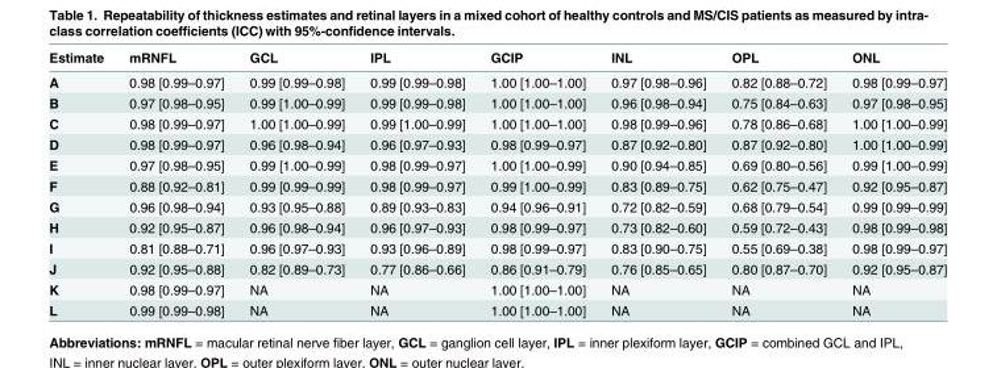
<table><thead><tr><td>Estimate</td><td>mRNFL</td><td>GCL</td><td>IPL</td><td>GCIP</td><td>INL</td><td>OPL</td><td>ONL</td></tr></thead><tbody><tr><td>A</td><td>0.98 [0.99–0.97]</td><td>0.99 [0.99–0.98]</td><td>0.99 [0.99–0.98]</td><td>1.00 [1.00–1.00]</td><td>0.97 [0.98–0.96]</td><td>0.82 [0.88–0.72]</td><td>0.98 [0.99–0.97]</td></tr><tr><td>B</td><td>0.97 [0.98–0.95]</td><td>0.99 [1.00–0.99]</td><td>0.99 [0.99–0.98]</td><td>1.00 [1.00–1.00]</td><td>0.96 [0.98–0.94]</td><td>0.75 [0.84–0.63]</td><td>0.97 [0.98–0.95]</td></tr><tr><td>C</td><td>0.98 [0.99–0.97]</td><td>1.00 [1.00–0.99]</td><td>0.99 [1.00–0.99]</td><td>1.00 [1.00–1.00]</td><td>0.98 [0.99–0.96]</td><td>0.78 [0.86–0.68]</td><td>1.00 [1.00–0.99]</td></tr><tr><td>D</td><td>0.98 [0.99–0.97]</td><td>0.96 [0.98–0.94]</td><td>0.96 [0.97–0.93]</td><td>0.98 [0.99–0.97]</td><td>0.87 [0.92–0.80]</td><td>0.87 [0.92–0.80]</td><td>1.00 [1.00–0.99]</td></tr><tr><td>E</td><td>0.97 [0.98–0.95]</td><td>0.99 [1.00–0.99]</td><td>0.98 [0.99–0.97]</td><td>1.00 [1.00–0.99]</td><td>0.90 [0.94–0.85]</td><td>0.69 [0.80–0.56]</td><td>0.99 [1.00–0.99]</td></tr><tr><td>F</td><td>0.88 [0.92–0.81]</td><td>0.99 [0.99–0.99]</td><td>0.98 [0.99–0.97]</td><td>0.99 [1.00–0.99]</td><td>0.83 [0.89–0.75]</td><td>0.62 [0.75–0.47]</td><td>0.92 [0.95–0.87]</td></tr><tr><td>G</td><td>0.96 [0.98–0.94]</td><td>0.93 [0.95–0.88]</td><td>0.89 [0.93–0.83]</td><td>0.94 [0.96–0.91]</td><td>0.72 [0.82–0.59]</td><td>0.68 [0.79–0.54]</td><td>0.99 [0.99–0.99]</td></tr><tr><td>H</td><td>0.92 [0.95–0.87]</td><td>0.96 [0.98–0.94]</td><td>0.96 [0.97–0.93]</td><td>0.98 [0.99–0.97]</td><td>0.73 [0.82–0.60]</td><td>0.59 [0.72–0.43]</td><td>0.98 [0.99–0.98]</td></tr><tr><td>I</td><td>0.81 [0.88–0.71]</td><td>0.96 [0.97–0.93]</td><td>0.93 [0.96–0.89]</td><td>0.98 [0.99–0.97]</td><td>0.83 [0.90–0.75]</td><td>0.55 [0.69–0.38]</td><td>0.98 [0.99–0.97]</td></tr><tr><td>J</td><td>0.92 [0.95–0.88]</td><td>0.82 [0.89–0.73]</td><td>0.77 [0.86–0.66]</td><td>0.86 [0.91–0.79]</td><td>0.76 [0.85–0.65]</td><td>0.80 [0.87–0.70]</td><td>0.92 [0.95–0.87]</td></tr><tr><td>K</td><td>0.98 [0.99–0.97]</td><td>NA</td><td>NA</td><td>1.00 [1.00–1.00]</td><td>NA</td><td>NA</td><td>NA</td></tr><tr><td>L</td><td>0.99 [0.99–0.98]</td><td>NA</td><td>NA</td><td>1.00 [1.00–1.00]</td><td>NA</td><td>NA</td><td>NA</td></tr></tbody></table>